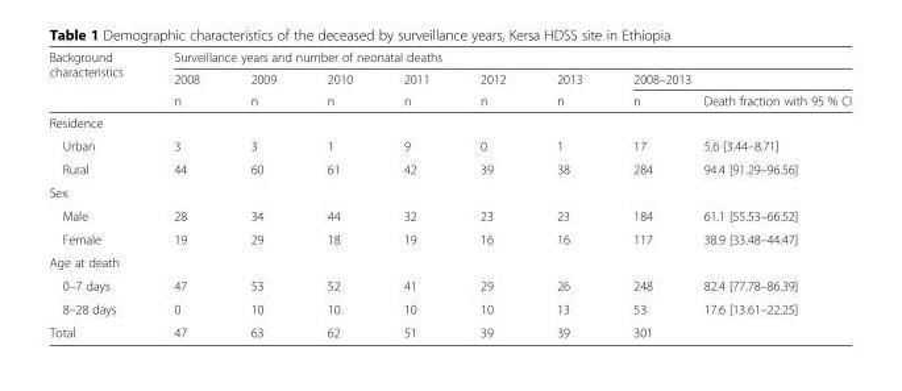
<table><thead><tr><td rowspan="3">Background characteristics</td><td colspan="8">Surveillance years and number of neonatal deaths</td></tr><tr><td rowspan="2">2008 n</td><td rowspan="2">2009 n</td><td rowspan="2">2010 n</td><td rowspan="2">2011 n</td><td rowspan="2">2012 n</td><td rowspan="2">2013 n</td><td colspan="2">2008–2013</td></tr><tr><td>n</td><td>Death fraction with 95 % CI</td></tr></thead><tbody><tr><td colspan="9">Residence</td></tr><tr><td>Urban</td><td>3</td><td>3</td><td>1</td><td>9</td><td>0</td><td>1</td><td>17</td><td>5.6 [3.44–8.71]</td></tr><tr><td>Rural</td><td>44</td><td>60</td><td>61</td><td>42</td><td>39</td><td>38</td><td>284</td><td>94.4 [91.29–96.56]</td></tr><tr><td colspan="9">Sex</td></tr><tr><td>Male</td><td>28</td><td>34</td><td>44</td><td>32</td><td>23</td><td>23</td><td>184</td><td>61.1 [55.53–66.52]</td></tr><tr><td>Female</td><td>19</td><td>29</td><td>18</td><td>19</td><td>16</td><td>16</td><td>117</td><td>38.9 [33.48–44.47]</td></tr><tr><td colspan="9">Age at death</td></tr><tr><td>0–7 days</td><td>47</td><td>53</td><td>52</td><td>41</td><td>29</td><td>26</td><td>248</td><td>82.4 [77.78–86.39]</td></tr><tr><td>8–28 days</td><td>0</td><td>10</td><td>10</td><td>10</td><td>10</td><td>13</td><td>53</td><td>17.6 [13.61–22.25]</td></tr><tr><td>Total</td><td>47</td><td>63</td><td>62</td><td>51</td><td>39</td><td>39</td><td>301</td><td></td></tr></tbody></table>